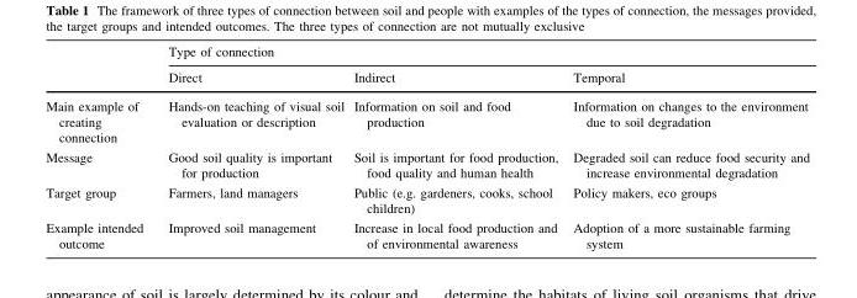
<table><thead><tr><td rowspan="2"></td><td colspan="3">Type of connection</td></tr><tr><td>Direct</td><td>Indirect</td><td>Temporal</td></tr></thead><tbody><tr><td>Main example of creating connection</td><td>Hands-on teaching of visual soil evaluation or description</td><td>Information on soil and food production</td><td>Information on changes to the environment due to soil degradation</td></tr><tr><td>Message</td><td>Good soil quality is important for production</td><td>Soil is important for food production, food quality and human health</td><td>Degraded soil can reduce food security and increase environmental degradation</td></tr><tr><td>Target group</td><td>Farmers, land managers</td><td>Public (e.g. gardeners, cooks, school children)</td><td>Policy makers, eco groups</td></tr><tr><td>Example intended outcome</td><td>Improved soil management</td><td>Increase in local food production and of environmental awareness</td><td>Adoption of a more sustainable farming system</td></tr></tbody></table>